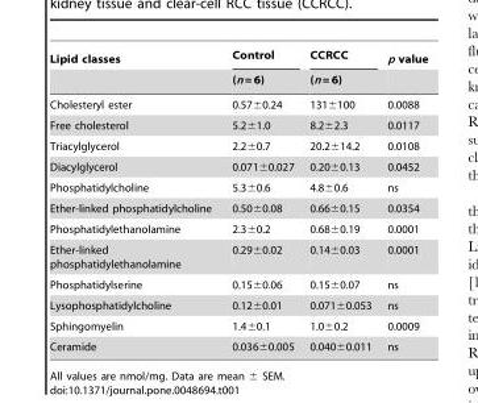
<table><thead><tr><td rowspan="2">Lipid classes</td><td rowspan="2">Control (n = 6)</td><td rowspan="2">CCRCC (n = 6)</td><td rowspan="2">p value</td></tr><tr></tr></thead><tbody><tr><td>Cholesteryl ester</td><td>0.57±0.24</td><td>131±100</td><td>0.0088</td></tr><tr><td>Free cholesterol</td><td>5.2±1.0</td><td>8.2±2.3</td><td>0.0117</td></tr><tr><td>Triacylglycerol</td><td>2.2±0.7</td><td>20.2±14.2</td><td>0.0108</td></tr><tr><td>Diacylglycerol</td><td>0.071±0.027</td><td>0.20±0.13</td><td>0.0452</td></tr><tr><td>Phosphatidylcholine</td><td>5.3±0.6</td><td>4.8±0.6</td><td>ns</td></tr><tr><td>Ether-linked phosphatidylcholine</td><td>0.50±0.08</td><td>0.66±0.15</td><td>0.0354</td></tr><tr><td>Phosphatidylethanolamine</td><td>2.3±0.2</td><td>0.68±0.19</td><td>0.0001</td></tr><tr><td>Ether-linked phosphatidylethanolamine</td><td>0.29±0.02</td><td>0.14±0.03</td><td>0.0001</td></tr><tr><td>Phosphatidylserine</td><td>0.15±0.06</td><td>0.15±0.07</td><td>ns</td></tr><tr><td>Lysophosphatidylcholine</td><td>0.12±0.01</td><td>0.071±0.053</td><td>ns</td></tr><tr><td>Sphingomyelin</td><td>1.4±0.1</td><td>1.0±0.2</td><td>0.0009</td></tr><tr><td>Ceramide</td><td>0.036±0.005</td><td>0.040±0.011</td><td>ns</td></tr></tbody></table>